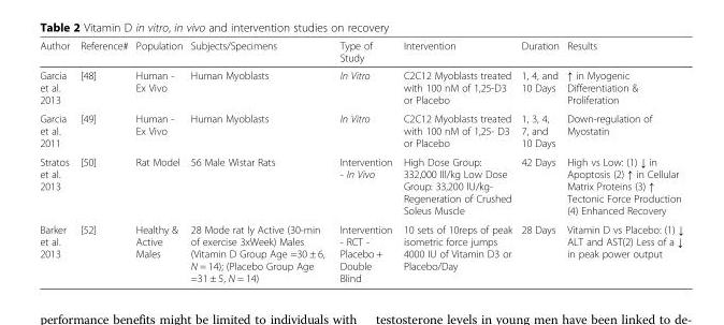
<table><thead><tr><td>Author</td><td>Reference#</td><td>Population</td><td>Subjects/Specimens</td><td>Type of Study</td><td>Intervention</td><td>Duration</td><td>Results</td></tr></thead><tbody><tr><td>Garcia et al. 2013</td><td>[48]</td><td>Human - Ex Vivo</td><td>Human Myoblasts</td><td>In Vitro</td><td>C2C12 Myoblasts treated with 100 nM of 1,25-D3 or Placebo</td><td>1, 4, and 10 Days</td><td>↑ in Myogenic Differentiation &amp; Proliferation</td></tr><tr><td>Garcia et al. 2011</td><td>[49]</td><td>Human - Ex Vivo</td><td>Human Myoblasts</td><td>In Vitro</td><td>C2C12 Myoblasts treated with 100 nM of 1,25- D3 or Placebo</td><td>1, 3, 4, 7, and 10 Days</td><td>Down-regulation of Myostatin</td></tr><tr><td>Stratos et al. 2013</td><td>[50]</td><td>Rat Model</td><td>56 Male Wistar Rats</td><td>Intervention - In Vivo</td><td>High Dose Group: 332,000 Ill/kg Low Dose Group: 33,200 lU/kg- Regeneration of Crushed Soleus Muscle</td><td>42 Days</td><td>High vs Low: (1) ↓ in Apoptosis (2) ↑ in Cellular Matrix Proteins (3) ↑ Tectonic Force Production (4) Enhanced Recovery</td></tr><tr><td>Barker et al. 2013</td><td>[52]</td><td>Healthy &amp; Active Males</td><td>28 Mode rat ly Active (30-min of exercise 3xWeek) Males (Vitamin D Group Age =30 ± 6, N = 14); (Placebo Group Age =31 ± 5, N = 14)</td><td>Intervention - RCT - Placebo + Double Blind</td><td>10 sets of 10reps of peak isometric force jumps 4000 IU of Vitamin D3 or Placebo/Day</td><td>28 Days</td><td>Vitamin D vs Placebo: (1) ↓ ALT and AST(2) Less of a ↓ in peak power output</td></tr></tbody></table>